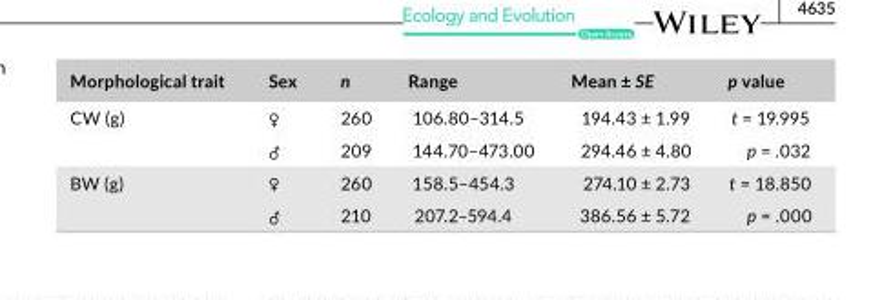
<table><thead><tr><td>Morphological trait</td><td>Sex</td><td>n</td><td>Range</td><td>Mean ± SE</td><td>p value</td></tr></thead><tbody><tr><td rowspan="2">CW (g)</td><td>♀</td><td>260</td><td>106.80–314.5</td><td>194.43 ± 1.99</td><td>t = 19.995</td></tr><tr><td>♂</td><td>209</td><td>144.70–473.00</td><td>294.46 ± 4.80</td><td>p = .032</td></tr><tr><td rowspan="2">BW (g)</td><td>♀</td><td>260</td><td>158.5–454.3</td><td>274.10 ± 2.73</td><td>t = 18.850</td></tr><tr><td>♂</td><td>210</td><td>207.2–594.4</td><td>386.56 ± 5.72</td><td>p = .000</td></tr></tbody></table>